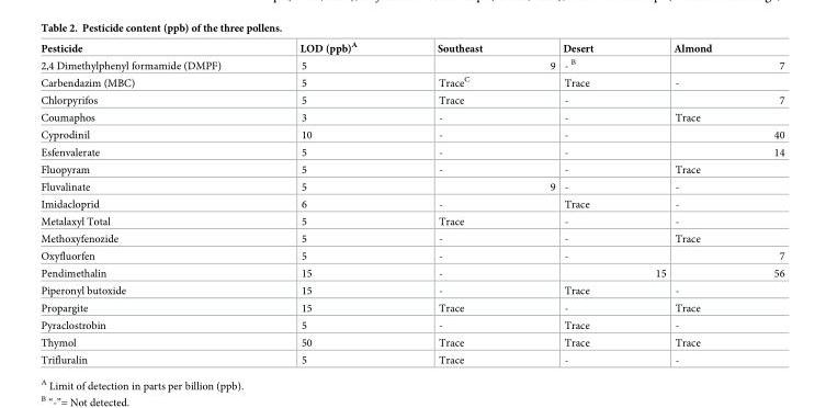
<table><thead><tr><td>Pesticide</td><td>LOD (ppb)<sup>A</sup></td><td>Southeast</td><td>Desert</td><td>Almond</td></tr></thead><tbody><tr><td>2,4 Dimethylphenyl formamide (DMPF)</td><td>5</td><td>9</td><td>- <sup>B</sup></td><td>7</td></tr><tr><td>Carbendazim (MBC)</td><td>5</td><td>Trace<sup>C</sup></td><td>Trace</td><td>-</td></tr><tr><td>Chlorpyrifos</td><td>5</td><td>Trace</td><td>-</td><td>7</td></tr><tr><td>Coumaphos</td><td>3</td><td>-</td><td>-</td><td>Trace</td></tr><tr><td>Cyprodinil</td><td>10</td><td>-</td><td>-</td><td>40</td></tr><tr><td>Esfenvalerate</td><td>5</td><td>-</td><td>-</td><td>14</td></tr><tr><td>Fluopyram</td><td>5</td><td>-</td><td>-</td><td>Trace</td></tr><tr><td>Fluvalinate</td><td>5</td><td>9</td><td>-</td><td>-</td></tr><tr><td>Imidacloprid</td><td>6</td><td>-</td><td>Trace</td><td>-</td></tr><tr><td>Metalaxyl Total</td><td>5</td><td>Trace</td><td>-</td><td>-</td></tr><tr><td>Methoxyfenozide</td><td>5</td><td>-</td><td>-</td><td>Trace</td></tr><tr><td>Oxyfluorfen</td><td>5</td><td>-</td><td>-</td><td>7</td></tr><tr><td>Pendimethalin</td><td>15</td><td>-</td><td>15</td><td>56</td></tr><tr><td>Piperonyl butoxide</td><td>15</td><td>-</td><td>Trace</td><td>-</td></tr><tr><td>Propargite</td><td>15</td><td>Trace</td><td>-</td><td>Trace</td></tr><tr><td>Pyraclostrobin</td><td>5</td><td>-</td><td>Trace</td><td>-</td></tr><tr><td>Thymol</td><td>50</td><td>Trace</td><td>Trace</td><td>Trace</td></tr><tr><td>Trifluralin</td><td>5</td><td>Trace</td><td>-</td><td>-</td></tr></tbody></table>